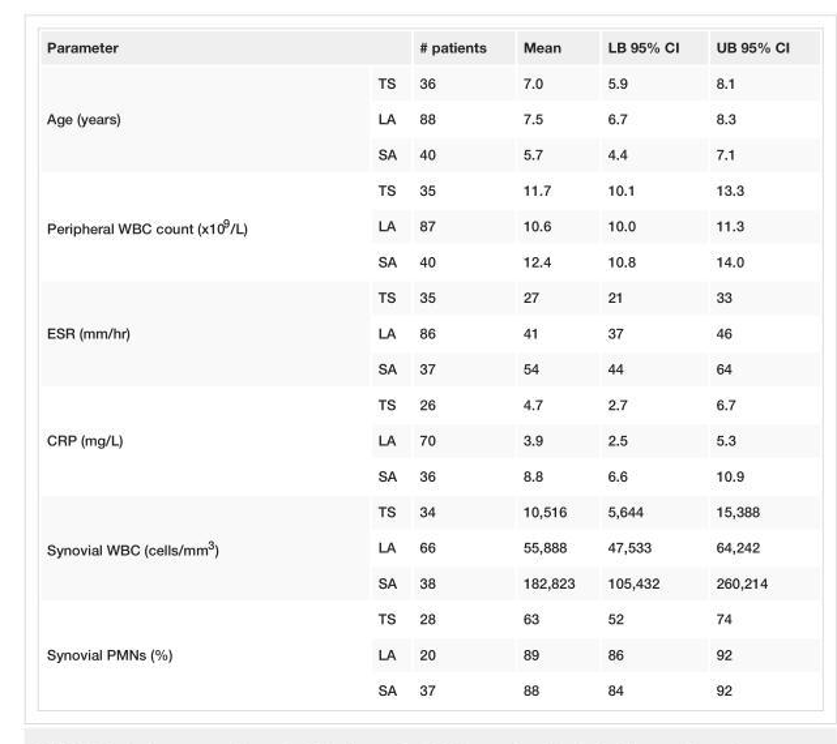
<table><tbody><tr><td colspan="2">Parameter</td><td># patients</td><td>Mean</td><td>LB 95% CI</td><td>UB 95% CI</td></tr><tr><td rowspan="3">Age (years)</td><td>TS</td><td>36</td><td>7.0</td><td>5.9</td><td>8.1</td></tr><tr><td>LA</td><td>88</td><td>7.5</td><td>6.7</td><td>8.3</td></tr><tr><td>SA</td><td>40</td><td>5.7</td><td>4.4</td><td>7.1</td></tr><tr><td rowspan="3">Peripheral WBC count (x10<sup>9</sup>/L)</td><td>TS</td><td>35</td><td>11.7</td><td>10.1</td><td>13.3</td></tr><tr><td>LA</td><td>87</td><td>10.6</td><td>10.0</td><td>11.3</td></tr><tr><td>SA</td><td>40</td><td>12.4</td><td>10.8</td><td>14.0</td></tr><tr><td rowspan="3">ESR (mm/hr)</td><td>TS</td><td>35</td><td>27</td><td>21</td><td>33</td></tr><tr><td>LA</td><td>86</td><td>41</td><td>37</td><td>46</td></tr><tr><td>SA</td><td>37</td><td>54</td><td>44</td><td>64</td></tr><tr><td rowspan="3">CRP (mg/L)</td><td>TS</td><td>26</td><td>4.7</td><td>2.7</td><td>6.7</td></tr><tr><td>LA</td><td>70</td><td>3.9</td><td>2.5</td><td>5.3</td></tr><tr><td>SA</td><td>36</td><td>8.8</td><td>6.6</td><td>10.9</td></tr><tr><td rowspan="3">Synovial WBC (cells/mm<sup>3</sup>)</td><td>TS</td><td>34</td><td>10,516</td><td>5,644</td><td>15,388</td></tr><tr><td>LA</td><td>66</td><td>55,888</td><td>47,533</td><td>64,242</td></tr><tr><td>SA</td><td>38</td><td>182,823</td><td>105,432</td><td>260,214</td></tr><tr><td rowspan="3">Synovial PMNs (%)</td><td>TS</td><td>28</td><td>63</td><td>52</td><td>74</td></tr><tr><td>LA</td><td>20</td><td>89</td><td>86</td><td>92</td></tr><tr><td>SA</td><td>37</td><td>88</td><td>84</td><td>92</td></tr></tbody></table>